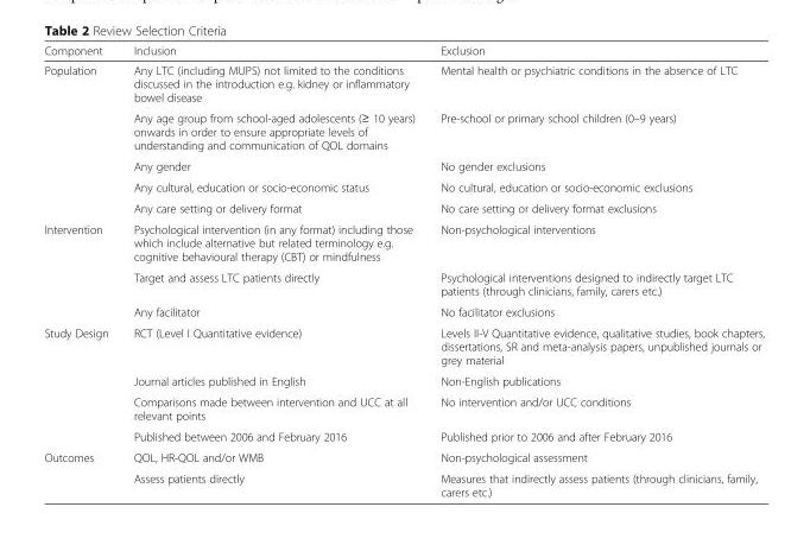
<table><thead><tr><td>Component</td><td>Inclusion</td><td>Exclusion</td></tr></thead><tbody><tr><td rowspan="5">Population</td><td>Any LTC (including MUPS) not limited to the conditions discussed in the introduction e.g. kidney or inflammatory bowel disease</td><td>Mental health or psychiatric conditions in the absence of LTC</td></tr><tr><td>Any age group from school-aged adolescents (≥ 10 years) onwards in order to ensure appropriate levels of understanding and communication of QOL domains</td><td>Pre-school or primary school children (0–9 years)</td></tr><tr><td>Any gender</td><td>No gender exclusions</td></tr><tr><td>Any cultural, education or socio-economic status</td><td>No cultural, education or socio-economic exclusions</td></tr><tr><td>Any care setting or delivery format</td><td>No care setting or delivery format exclusions</td></tr><tr><td rowspan="3">Intervention</td><td>Psychological intervention (in any format) including those which include alternative but related terminology e.g. cognitive behavioural therapy (CBT) or mindfulness</td><td>Non-psychological interventions</td></tr><tr><td>Target and assess LTC patients directly</td><td>Psychological interventions designed to indirectly target LTC patients (through clinicians, family, carers etc.)</td></tr><tr><td>Any facilitator</td><td>No facilitator exclusions</td></tr><tr><td rowspan="4">Study Design</td><td>RCT (Level I Quantitative evidence)</td><td>Levels II-V Quantitative evidence, qualitative studies, book chapters, dissertations, SR and meta-analysis papers, unpublished journals or grey material</td></tr><tr><td>Journal articles published in English</td><td>Non-English publications</td></tr><tr><td>Comparisons made between intervention and UCC at all relevant points</td><td>No intervention and/or UCC conditions</td></tr><tr><td>Published between 2006 and February 2016</td><td>Published prior to 2006 and after February 2016</td></tr><tr><td rowspan="2">Outcomes</td><td>QOL, HR-QOL and/or WMB</td><td>Non-psychological assessment</td></tr><tr><td>Assess patients directly</td><td>Measures that indirectly assess patients (through clinicians, family, carers etc.)</td></tr></tbody></table>